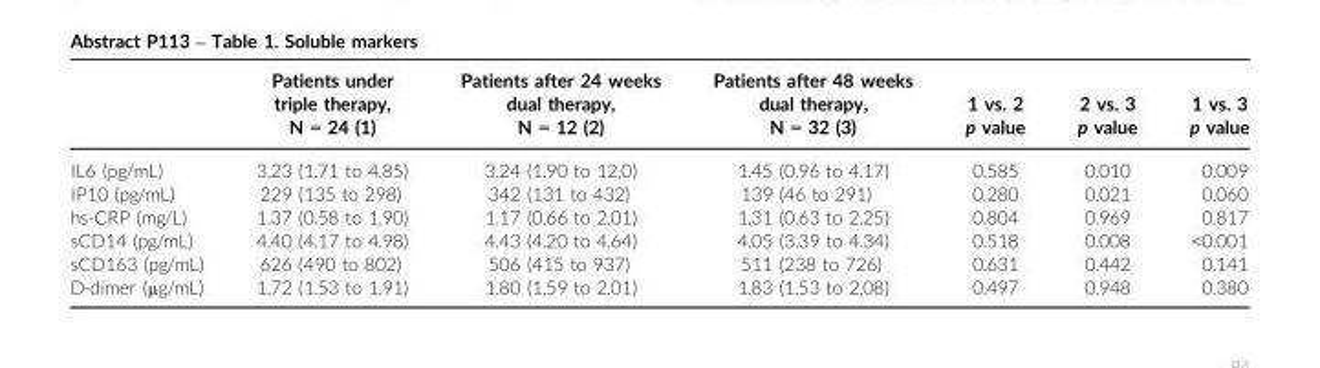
<table><thead><tr><td></td><td>Patients under triple therapy, N = 24 (1)</td><td>Patients after 24 weeks dual therapy, N = 12 (2)</td><td>Patients after 48 weeks dual therapy, N = 32 (3)</td><td>1 vs. 2 p value</td><td>2 vs. 3 p value</td><td>1 vs. 3 p value</td></tr></thead><tbody><tr><td>IL6 (pg/mL)</td><td>3.23 (1.71 to 4.85)</td><td>3.24 (1.90 to 12,0)</td><td>1.45 (0.96 to 4.17)</td><td>0.585</td><td>0.010</td><td>0.009</td></tr><tr><td>IP10 (pg/mL)</td><td>229 (135 to 298)</td><td>342 (131 to 432)</td><td>139 (46 to 291)</td><td>0.280</td><td>0.021</td><td>0.060</td></tr><tr><td>hs-CRP (mg/L)</td><td>1.37 (0.58 to 1.90)</td><td>1.17 (0.66 to 2.01)</td><td>1.31 (0.63 to 2.25)</td><td>0.804</td><td>0.969</td><td>0.817</td></tr><tr><td>sCD14 (pg/mL)</td><td>4.40 (4.17 to 4.98)</td><td>4.43 (4.20 to 4.64)</td><td>4.05 (3.39 to 4.34)</td><td>0.518</td><td>0.008</td><td>&lt;0.001</td></tr><tr><td>sCD163 (pg/mL)</td><td>626 (490 to 802)</td><td>506 (415 to 937)</td><td>511 (238 to 726)</td><td>0.631</td><td>0.442</td><td>0.141</td></tr><tr><td>D-dimer (μg/mL)</td><td>1.72 (1.53 to 1.91)</td><td>1.80 (1.59 to 2.01)</td><td>1.83 (1.53 to 2.08)</td><td>0.497</td><td>0.948</td><td>0.380</td></tr></tbody></table>